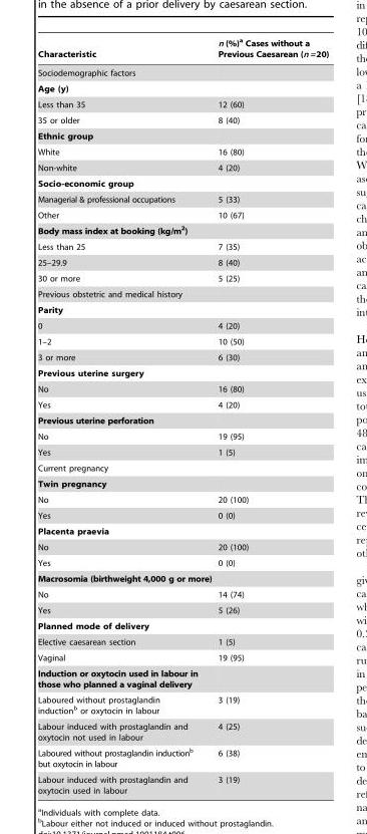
<table><thead><tr><td>Characteristic</td><td>n (%)<sup>a</sup> Cases without a Previous Caesarean (n=20)</td></tr></thead><tbody><tr><td colspan="2">Sociodemographic factors</td></tr><tr><td colspan="2">Age (y)</td></tr><tr><td>Less than 35</td><td>12 (60)</td></tr><tr><td>35 or older</td><td>8 (40)</td></tr><tr><td colspan="2">Ethnic group</td></tr><tr><td>White</td><td>16 (80)</td></tr><tr><td>Non-white</td><td>4 (20)</td></tr><tr><td colspan="2">Socio-economic group</td></tr><tr><td>Managerial &amp; professional occupations</td><td>5 (33)</td></tr><tr><td>Other</td><td>10 (67)</td></tr><tr><td colspan="2">Body mass index at booking (kg/m<sup>2</sup>)</td></tr><tr><td>Less than 25</td><td>7 (35)</td></tr><tr><td>25–29.9</td><td>8 (40)</td></tr><tr><td>30 or more</td><td>5 (25)</td></tr><tr><td colspan="2">Previous obstetric and medical history</td></tr><tr><td colspan="2">Parity</td></tr><tr><td>0</td><td>4 (20)</td></tr><tr><td>1–2</td><td>10 (50)</td></tr><tr><td>3 or more</td><td>6 (30)</td></tr><tr><td colspan="2">Previous uterine surgery</td></tr><tr><td>No</td><td>16 (80)</td></tr><tr><td>Yes</td><td>4 (20)</td></tr><tr><td colspan="2">Previous uterine perforation</td></tr><tr><td>No</td><td>19 (95)</td></tr><tr><td>Yes</td><td>1 (5)</td></tr><tr><td colspan="2">Current pregnancy</td></tr><tr><td colspan="2">Twin pregnancy</td></tr><tr><td>No</td><td>20 (100)</td></tr><tr><td>Yes</td><td>0 (0)</td></tr><tr><td colspan="2">Placenta praevia</td></tr><tr><td>No</td><td>20 (100)</td></tr><tr><td>Yes</td><td>0 (0)</td></tr><tr><td colspan="2">Macrosomia (birthweight 4,000 g or more)</td></tr><tr><td>No</td><td>14 (74)</td></tr><tr><td>Yes</td><td>5 (26)</td></tr><tr><td colspan="2">Planned mode of delivery</td></tr><tr><td>Elective caesarean section</td><td>1 (5)</td></tr><tr><td>Vaginal</td><td>19 (95)</td></tr><tr><td colspan="2">Induction or oxytocin used in labour in those who planned a vaginal delivery</td></tr><tr><td>Laboured without prostaglandin induction<sup>b</sup> or oxytocin in labour</td><td>3 (19)</td></tr><tr><td>Labour induced with prostaglandin and oxytocin not used in labour</td><td>4 (25)</td></tr><tr><td>Laboured without prostaglandin induction<sup>b</sup> but oxytocin in labour</td><td>6 (38)</td></tr><tr><td>Labour induced with prostaglandin and oxytocin used in labour</td><td>3 (19)</td></tr></tbody></table>